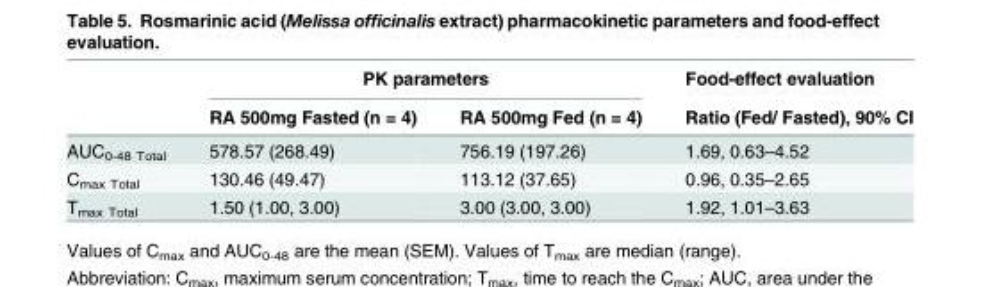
<table><thead><tr><td rowspan="2"></td><td colspan="2">PK parameters</td><td rowspan="2">Food-effect evaluation Ratio (Fed/ Fasted), 90% CI</td></tr><tr><td>RA 500mg Fasted (n = 4)</td><td>RA 500mg Fed (n = 4)</td></tr></thead><tbody><tr><td>AUC<sub>0-48 Total</sub></td><td>578.57 (268.49)</td><td>756.19 (197.26)</td><td>1.69, 0.63–4.52</td></tr><tr><td>C<sub>max Total</sub></td><td>130.46 (49.47)</td><td>113.12 (37.65)</td><td>0.96, 0.35–2.65</td></tr><tr><td>T<sub>max Total</sub></td><td>1.50 (1.00, 3.00)</td><td>3.00 (3.00, 3.00)</td><td>1.92, 1.01–3.63</td></tr></tbody></table>